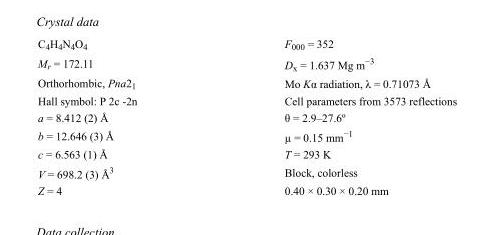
<table><tbody><tr><td>C<sub>4</sub>H<sub>4</sub>N<sub>4</sub>O<sub>4</sub></td><td>F000 = 352</td></tr><tr><td>M<sub>r</sub> = 172.11</td><td>D<sub>x</sub> = 1.637 Mg m<sup>−3</sup></td></tr><tr><td>Orthorhombic, Pna2<sub>1</sub></td><td>Mo Kα radiation, λ = 0.71073 Å</td></tr><tr><td>Hall symbol: P 2c -2n</td><td>Cell parameters from 3573 reflections</td></tr><tr><td>a = 8.412 (2) Å</td><td>θ = 2.9–27.6º</td></tr><tr><td>b = 12.646 (3) Å</td><td>µ = 0.15 mm<sup>−1</sup></td></tr><tr><td>c = 6.563 (1) Å</td><td>T = 293 K</td></tr><tr><td>V = 698.2 (3) Å<sup>3</sup></td><td>Block, colorless</td></tr><tr><td>Z = 4</td><td>0.40 × 0.30 × 0.20 mm</td></tr></tbody></table>